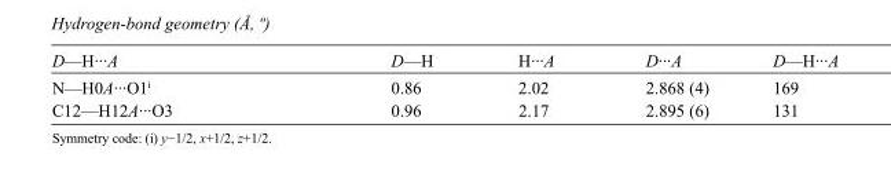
<table><tbody><tr><td>D—H···A</td><td>D—H</td><td>H···A</td><td>D···A</td><td>D—H···A</td></tr><tr><td>N—H0A···O1<sup>i</sup></td><td>0.86</td><td>2.02</td><td>2.868 (4)</td><td>169</td></tr><tr><td>C12—H12A···O3</td><td>0.96</td><td>2.17</td><td>2.895 (6)</td><td>131</td></tr></tbody></table>